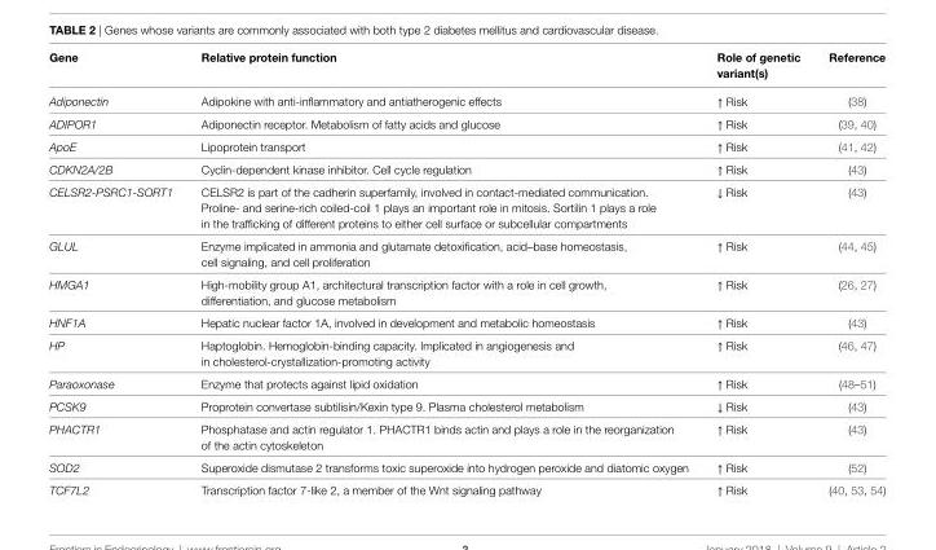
<table><thead><tr><td>Gene</td><td>Relative protein function</td><td>Role of genetic variant(s)</td><td>Reference</td></tr></thead><tbody><tr><td>Adiponectin</td><td>Adipokine with anti-inflammatory and antiatherogenic effects</td><td>↑ Risk</td><td>(38)</td></tr><tr><td>ADIPOR1</td><td>Adiponectin receptor. Metabolism of fatty acids and glucose</td><td>↑ Risk</td><td>(39, 40)</td></tr><tr><td>ApoE</td><td>Lipoprotein transport</td><td>↑ Risk</td><td>(41, 42)</td></tr><tr><td>CDKN2A/2B</td><td>Cyclin-dependent kinase inhibitor. Cell cycle regulation</td><td>↑ Risk</td><td>(43)</td></tr><tr><td>CELSR2-PSRC1-SORT1</td><td>CELSR2 is part of the cadherin superfamily, involved in contact-mediated communication. Proline- and serine-rich coiled-coil 1 plays an important role in mitosis. Sortilin 1 plays a role in the trafficking of different proteins to either cell surface or subcellular compartments</td><td>↓ Risk</td><td>(43)</td></tr><tr><td>GLUL</td><td>Enzyme implicated in ammonia and glutamate detoxification, acid–base homeostasis, cell signaling, and cell proliferation</td><td>↑ Risk</td><td>(44, 45)</td></tr><tr><td>HMGA1</td><td>High-mobility group A1, architectural transcription factor with a role in cell growth, differentiation, and glucose metabolism</td><td>↑ Risk</td><td>(26, 27)</td></tr><tr><td>HNF1A</td><td>Hepatic nuclear factor 1A, involved in development and metabolic homeostasis</td><td>↑ Risk</td><td>(43)</td></tr><tr><td>HP</td><td>Haptoglobin. Hemoglobin-binding capacity. Implicated in angiogenesis and in cholesterol-crystallization-promoting activity</td><td>↑ Risk</td><td>(46, 47)</td></tr><tr><td>Paraoxonase</td><td>Enzyme that protects against lipid oxidation</td><td>↑ Risk</td><td>(48–51)</td></tr><tr><td>PCSK9</td><td>Proprotein convertase subtilisin/Kexin type 9. Plasma cholesterol metabolism</td><td>↓ Risk</td><td>(43)</td></tr><tr><td>PHACTR1</td><td>Phosphatase and actin regulator 1. PHACTR1 binds actin and plays a role in the reorganization of the actin cytoskeleton</td><td>↑ Risk</td><td>(43)</td></tr><tr><td>SOD2</td><td>Superoxide dismutase 2 transforms toxic superoxide into hydrogen peroxide and diatomic oxygen</td><td>↑ Risk</td><td>(52)</td></tr><tr><td>TCF7L2</td><td>Transcription factor 7-like 2, a member of the Wnt signaling pathway</td><td>↑ Risk</td><td>(40, 53, 54)</td></tr></tbody></table>